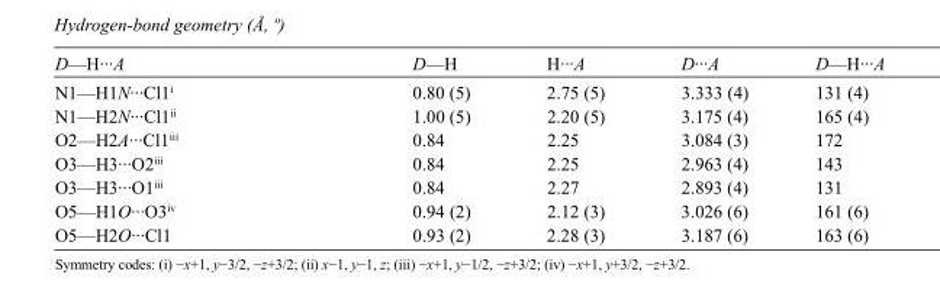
<table><tbody><tr><td>D—H···A</td><td>D—H</td><td>H···A</td><td>D···A</td><td>D—H···A</td></tr><tr><td>N1—H1N···Cl1<sup>i</sup></td><td>0.80 (5)</td><td>2.75 (5)</td><td>3.333 (4)</td><td>131 (4)</td></tr><tr><td>N1—H2N···Cl1<sup>ii</sup></td><td>1.00 (5)</td><td>2.20 (5)</td><td>3.175 (4)</td><td>165 (4)</td></tr><tr><td>O2—H2A···Cl1<sup>iii</sup></td><td>0.84</td><td>2.25</td><td>3.084 (3)</td><td>172</td></tr><tr><td>O3—H3···O2<sup>iii</sup></td><td>0.84</td><td>2.25</td><td>2.963 (4)</td><td>143</td></tr><tr><td>O3—H3···O1<sup>iii</sup></td><td>0.84</td><td>2.27</td><td>2.893 (4)</td><td>131</td></tr><tr><td>O5—H1O···O3<sup>iv</sup></td><td>0.94 (2)</td><td>2.12 (3)</td><td>3.026 (6)</td><td>161 (6)</td></tr><tr><td>O5—H2O···Cl1</td><td>0.93 (2)</td><td>2.28 (3)</td><td>3.187 (6)</td><td>163 (6)</td></tr></tbody></table>